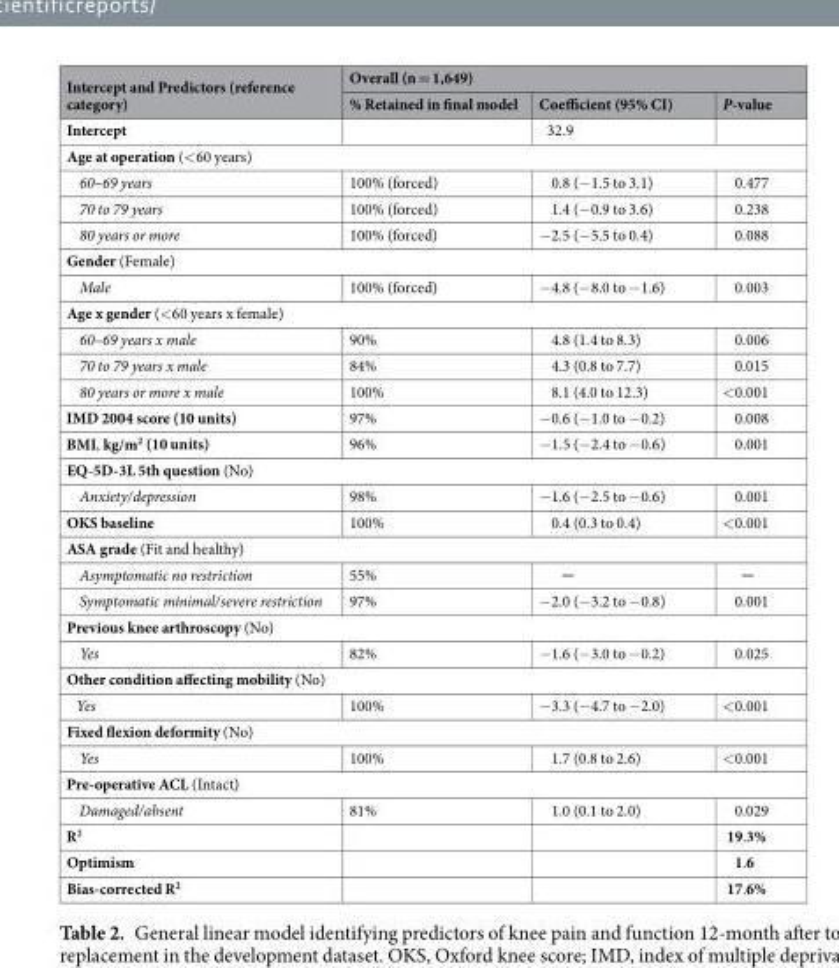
<table><thead><tr><td rowspan="2">Intercept and Predictors (reference category)</td><td colspan="3">Overall (n = 1,649)</td></tr><tr><td>% Retained in final model</td><td>Coefficient (95% CI)</td><td>P-value</td></tr></thead><tbody><tr><td>Intercept</td><td></td><td>32.9</td><td></td></tr><tr><td colspan="4">Age at operation (&lt;60 years)</td></tr><tr><td>60–69 years</td><td>100% (forced)</td><td>0.8 (−1.5 to 3.1)</td><td>0.477</td></tr><tr><td>70 to 79 years</td><td>100% (forced)</td><td>1.4 (−0.9 to 3.6)</td><td>0.238</td></tr><tr><td>80 years or more</td><td>100% (forced)</td><td>−2.5 (−5.5 to 0.4)</td><td>0.088</td></tr><tr><td colspan="4">Gender (Female)</td></tr><tr><td>Male</td><td>100% (forced)</td><td>−4.8 (−8.0 to −1.6)</td><td>0.003</td></tr><tr><td colspan="4">Age x gender (&lt;60 years x female)</td></tr><tr><td>60–69 years x male</td><td>90%</td><td>4.8 (1.4 to 8.3)</td><td>0.006</td></tr><tr><td>70 to 79 years x male</td><td>84%</td><td>4.3 (0.8 to 7.7)</td><td>0.015</td></tr><tr><td>80 years or more x male</td><td>100%</td><td>8.1 (4.0 to 12.3)</td><td>&lt;0.001</td></tr><tr><td>IMD 2004 score (10 units)</td><td>97%</td><td>−0.6 (−1.0 to −0.2)</td><td>0.008</td></tr><tr><td>BMI, kg/m<sup>2</sup> (10 units)</td><td>96%</td><td>−1.5 (−2.4 to −0.6)</td><td>0.001</td></tr><tr><td colspan="4">EQ-5D-3L 5th question (No)</td></tr><tr><td>Anxiety/depression</td><td>98%</td><td>−1.6 (−2.5 to −0.6)</td><td>0.001</td></tr><tr><td>OKS baseline</td><td>100%</td><td>0.4 (0.3 to 0.4)</td><td>&lt;0.001</td></tr><tr><td colspan="4">ASA grade (Fit and healthy)</td></tr><tr><td>Asymptomatic no restriction</td><td>55%</td><td>─</td><td>─</td></tr><tr><td>Symptomatic minimal/severe restriction</td><td>97%</td><td>−2.0 (−3.2 to −0.8)</td><td>0.001</td></tr><tr><td colspan="4">Previous knee arthroscopy (No)</td></tr><tr><td>Yes</td><td>82%</td><td>−1.6 (−3.0 to −0.2)</td><td>0.025</td></tr><tr><td colspan="4">Other condition affecting mobility (No)</td></tr><tr><td>Yes</td><td>100%</td><td>−3.3 (−4.7 to −2.0)</td><td>&lt;0.001</td></tr><tr><td colspan="4">Fixed flexion deformity (No)</td></tr><tr><td>Yes</td><td>100%</td><td>1.7 (0.8 to 2.6)</td><td>&lt;0.001</td></tr><tr><td colspan="4">Pre-operative ACL (Intact)</td></tr><tr><td>Damaged/absent</td><td>81%</td><td>1.0 (0.1 to 2.0)</td><td>0.029</td></tr><tr><td>R<sup>2</sup></td><td></td><td></td><td>19.3%</td></tr><tr><td>Optimism</td><td></td><td></td><td>1.6</td></tr><tr><td>Bias-corrected R<sup>2</sup></td><td></td><td></td><td>17.6%</td></tr></tbody></table>